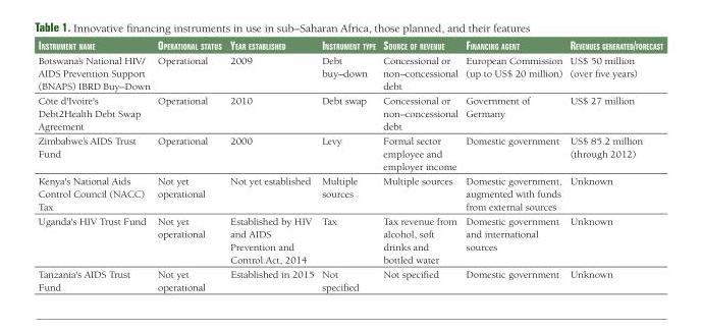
<table><thead><tr><td>Instrument name</td><td>OperatIOnal status</td><td>Year establIshed</td><td>Instrument tYpe</td><td>sOurce Of revenue</td><td>fInancIng agent</td><td>revenues generated/fOrecast</td></tr></thead><tbody><tr><td>Botswana’s National HIV/ AIDS Prevention Support (BNAPS) IBRD Buy–Down</td><td>Operational</td><td>2009</td><td>Debt buy–down</td><td>Concessional or non–concessional debt</td><td>European Commission (up to US$ 20 million)</td><td>US$ 50 million (over five years)</td></tr><tr><td>Côte d&#x27;Ivoire&#x27;s Debt2Health Debt Swap Agreement</td><td>Operational</td><td>2010</td><td>Debt swap</td><td>Concessional or non–concessional debt</td><td>Government of Germany</td><td>US$ 27 million</td></tr><tr><td>Zimbabwe’s AIDS Trust Fund</td><td>Operational</td><td>2000</td><td>Levy</td><td>Formal sector employee and employer income</td><td>Domestic government</td><td>US$ 85.2 million (through 2012)</td></tr><tr><td>Kenya&#x27;s National Aids Control Council (NACC) Tax</td><td>Not yet operational</td><td>Not yet established</td><td>Multiple sources</td><td>Multiple sources</td><td>Domestic government, augmented with funds from external sources</td><td>Unknown</td></tr><tr><td>Uganda&#x27;s HIV Trust Fund</td><td>Not yet operational</td><td>Established by HIV and AIDS Prevention and Control Act, 2014</td><td>Tax</td><td>Tax revenue from alcohol, soft drinks and bottled water</td><td>Domestic government and international sources</td><td>Unknown</td></tr><tr><td>Tanzania&#x27;s AIDS Trust Fund</td><td>Not yet operational</td><td>Established in 2015</td><td>Not specified</td><td>Not specified</td><td>Domestic government</td><td>Unknown</td></tr></tbody></table>